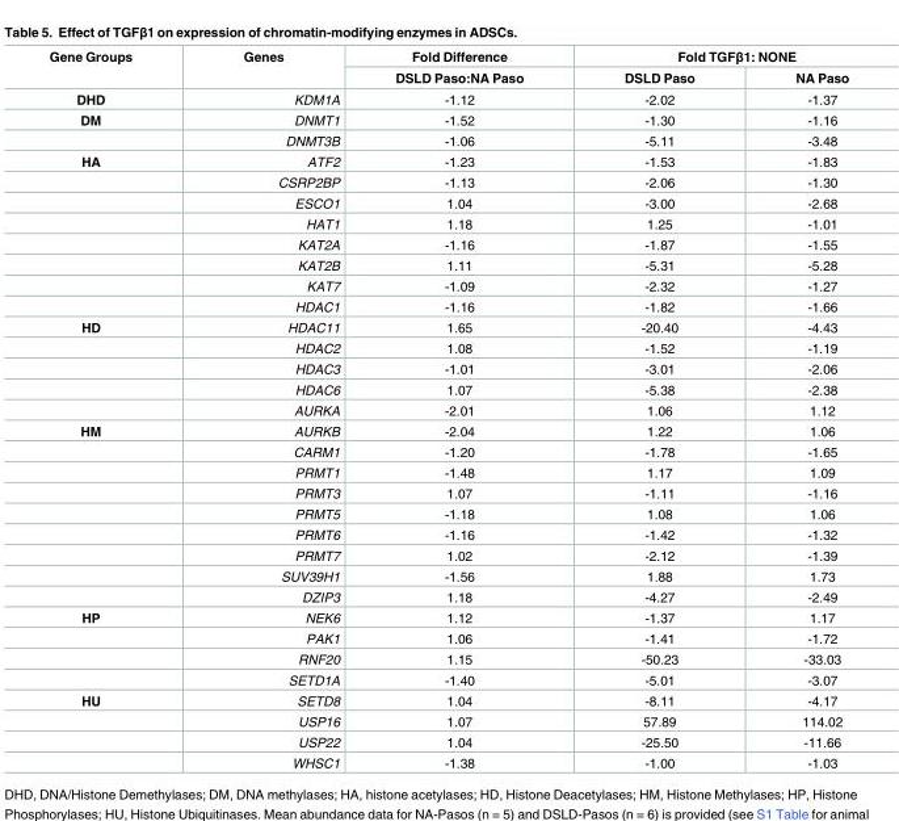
<table><thead><tr><td rowspan="2">Gene Groups</td><td rowspan="2">Genes</td><td rowspan="2">Fold Difference DSLD Paso:NA Paso</td><td colspan="2">Fold TGFβ1: NONE</td></tr><tr><td>DSLD Paso</td><td>NA Paso</td></tr></thead><tbody><tr><td>DHD</td><td>KDM1A</td><td>-1.12</td><td>-2.02</td><td>-1.37</td></tr><tr><td rowspan="2">DM</td><td>DNMT1</td><td>-1.52</td><td>-1.30</td><td>-1.16</td></tr><tr><td>DNMT3B</td><td>-1.06</td><td>-5.11</td><td>-3.48</td></tr><tr><td rowspan="8">HA</td><td>ATF2</td><td>-1.23</td><td>-1.53</td><td>-1.83</td></tr><tr><td>CSRP2BP</td><td>-1.13</td><td>-2.06</td><td>-1.30</td></tr><tr><td>ESCO1</td><td>1.04</td><td>-3.00</td><td>-2.68</td></tr><tr><td>HAT1</td><td>1.18</td><td>1.25</td><td>-1.01</td></tr><tr><td>KAT2A</td><td>-1.16</td><td>-1.87</td><td>-1.55</td></tr><tr><td>KAT2B</td><td>1.11</td><td>-5.31</td><td>-5.28</td></tr><tr><td>KAT7</td><td>-1.09</td><td>-2.32</td><td>-1.27</td></tr><tr><td>HDAC1</td><td>-1.16</td><td>-1.82</td><td>-1.66</td></tr><tr><td rowspan="5">HD</td><td>HDAC11</td><td>1.65</td><td>-20.40</td><td>-4.43</td></tr><tr><td>HDAC2</td><td>1.08</td><td>-1.52</td><td>-1.19</td></tr><tr><td>HDAC3</td><td>-1.01</td><td>-3.01</td><td>-2.06</td></tr><tr><td>HDAC6</td><td>1.07</td><td>-5.38</td><td>-2.38</td></tr><tr><td>AURKA</td><td>-2.01</td><td>1.06</td><td>1.12</td></tr><tr><td rowspan="9">HM</td><td>AURKB</td><td>-2.04</td><td>1.22</td><td>1.06</td></tr><tr><td>CARM1</td><td>-1.20</td><td>-1.78</td><td>-1.65</td></tr><tr><td>PRMT1</td><td>-1.48</td><td>1.17</td><td>1.09</td></tr><tr><td>PRMT3</td><td>1.07</td><td>-1.11</td><td>-1.16</td></tr><tr><td>PRMT5</td><td>-1.18</td><td>1.08</td><td>1.06</td></tr><tr><td>PRMT6</td><td>-1.16</td><td>-1.42</td><td>-1.32</td></tr><tr><td>PRMT7</td><td>1.02</td><td>-2.12</td><td>-1.39</td></tr><tr><td>SUV39H1</td><td>-1.56</td><td>1.88</td><td>1.73</td></tr><tr><td>DZIP3</td><td>1.18</td><td>-4.27</td><td>-2.49</td></tr><tr><td rowspan="4">HP</td><td>NEK6</td><td>1.12</td><td>-1.37</td><td>1.17</td></tr><tr><td>PAK1</td><td>1.06</td><td>-1.41</td><td>-1.72</td></tr><tr><td>RNF20</td><td>1.15</td><td>-50.23</td><td>-33.03</td></tr><tr><td>SETD1A</td><td>-1.40</td><td>-5.01</td><td>-3.07</td></tr><tr><td rowspan="4">HU</td><td>SETD8</td><td>1.04</td><td>-8.11</td><td>-4.17</td></tr><tr><td>USP16</td><td>1.07</td><td>57.89</td><td>114.02</td></tr><tr><td>USP22</td><td>1.04</td><td>-25.50</td><td>-11.66</td></tr><tr><td>WHSC1</td><td>-1.38</td><td>-1.00</td><td>-1.03</td></tr></tbody></table>